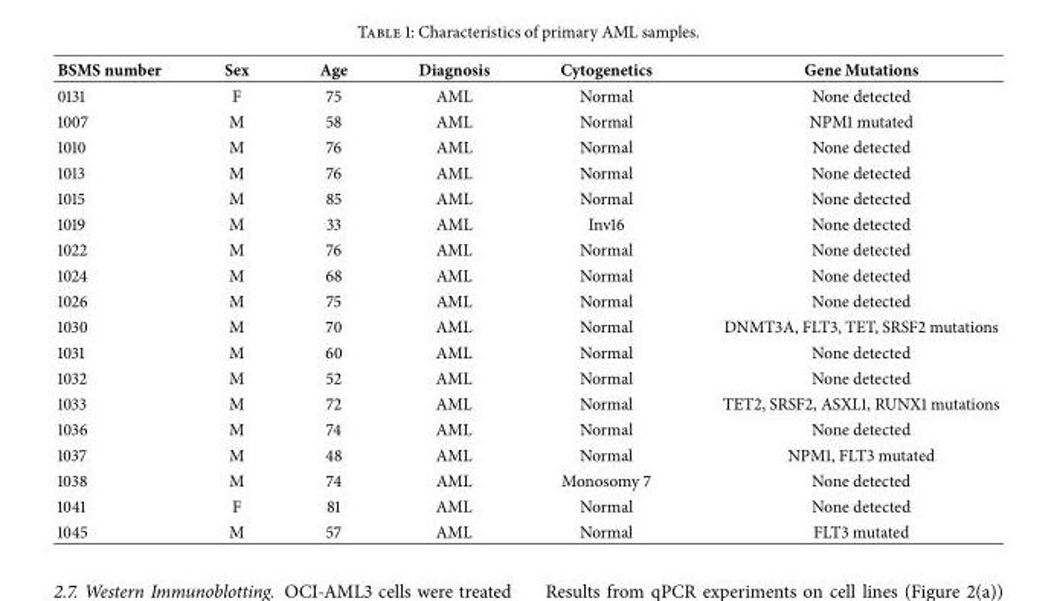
<table><thead><tr><td>BSMS number</td><td>Sex</td><td>Age</td><td>Diagnosis</td><td>Cytogenetics</td><td>Gene Mutations</td></tr></thead><tbody><tr><td>0131</td><td>F</td><td>75</td><td>AML</td><td>Normal</td><td>None detected</td></tr><tr><td>1007</td><td>M</td><td>58</td><td>AML</td><td>Normal</td><td>NPM1 mutated</td></tr><tr><td>1010</td><td>M</td><td>76</td><td>AML</td><td>Normal</td><td>None detected</td></tr><tr><td>1013</td><td>M</td><td>76</td><td>AML</td><td>Normal</td><td>None detected</td></tr><tr><td>1015</td><td>M</td><td>85</td><td>AML</td><td>Normal</td><td>None detected</td></tr><tr><td>1019</td><td>M</td><td>33</td><td>AML</td><td>Inv16</td><td>None detected</td></tr><tr><td>1022</td><td>M</td><td>76</td><td>AML</td><td>Normal</td><td>None detected</td></tr><tr><td>1024</td><td>M</td><td>68</td><td>AML</td><td>Normal</td><td>None detected</td></tr><tr><td>1026</td><td>M</td><td>75</td><td>AML</td><td>Normal</td><td>None detected</td></tr><tr><td>1030</td><td>M</td><td>70</td><td>AML</td><td>Normal</td><td>DNMT3A, FLT3, TET, SRSF2 mutations</td></tr><tr><td>1031</td><td>M</td><td>60</td><td>AML</td><td>Normal</td><td>None detected</td></tr><tr><td>1032</td><td>M</td><td>52</td><td>AML</td><td>Normal</td><td>None detected</td></tr><tr><td>1033</td><td>M</td><td>72</td><td>AML</td><td>Normal</td><td>TET2, SRSF2, ASXL1, RUNX1 mutations</td></tr><tr><td>1036</td><td>M</td><td>74</td><td>AML</td><td>Normal</td><td>None detected</td></tr><tr><td>1037</td><td>M</td><td>48</td><td>AML</td><td>Normal</td><td>NPM1, FLT3 mutated</td></tr><tr><td>1038</td><td>M</td><td>74</td><td>AML</td><td>Monosomy 7</td><td>None detected</td></tr><tr><td>1041</td><td>F</td><td>81</td><td>AML</td><td>Normal</td><td>None detected</td></tr><tr><td>1045</td><td>M</td><td>57</td><td>AML</td><td>Normal</td><td>FLT3 mutated</td></tr></tbody></table>